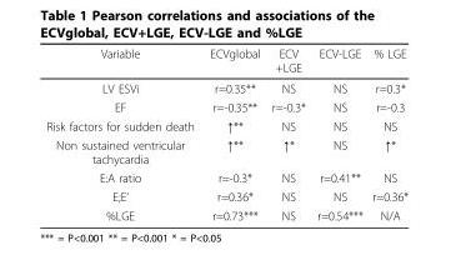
<table><thead><tr><td>Variable</td><td>ECVglobal</td><td>ECV +LGE</td><td>ECV-LGE</td><td>% LGE</td></tr></thead><tbody><tr><td>LV ESVi</td><td>r=0.35**</td><td>NS</td><td>NS</td><td>r=0.3*</td></tr><tr><td>EF</td><td>r=-0.35**</td><td>r=-0.3*</td><td>NS</td><td>r=-0.3</td></tr><tr><td>Risk factors for sudden death</td><td>↑**</td><td>NS</td><td>NS</td><td>NS</td></tr><tr><td>Non sustained ventricular tachycardia</td><td>↑**</td><td>↑*</td><td>NS</td><td>↑*</td></tr><tr><td>E:A ratio</td><td>r=-0.3*</td><td>NS</td><td>r=0.41**</td><td>NS</td></tr><tr><td>E;E’</td><td>r=0.36*</td><td>NS</td><td>NS</td><td>r=0.36*</td></tr><tr><td>%LGE</td><td>r=0.73***</td><td>NS</td><td>r=0.54***</td><td>N/A</td></tr></tbody></table>